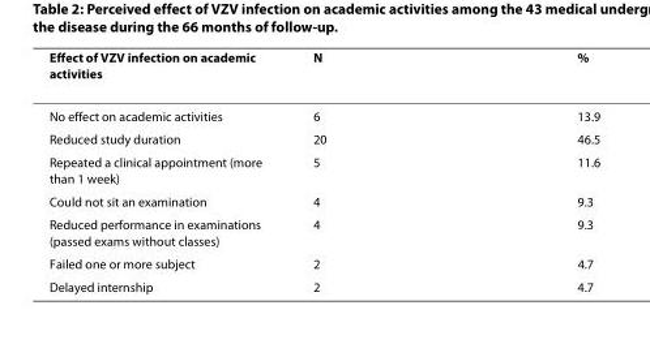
<table><thead><tr><td>Effect of VZV infection on academic activities</td><td>N</td><td>%</td></tr></thead><tbody><tr><td>No effect on academic activities</td><td>6</td><td>13.9</td></tr><tr><td>Reduced study duration</td><td>20</td><td>46.5</td></tr><tr><td>Repeated a clinical appointment (more than 1 week)</td><td>5</td><td>11.6</td></tr><tr><td>Could not sit an examination</td><td>4</td><td>9.3</td></tr><tr><td>Reduced performance in examinations (passed exams without classes)</td><td>4</td><td>9.3</td></tr><tr><td>Failed one or more subject</td><td>2</td><td>4.7</td></tr><tr><td>Delayed internship</td><td>2</td><td>4.7</td></tr></tbody></table>